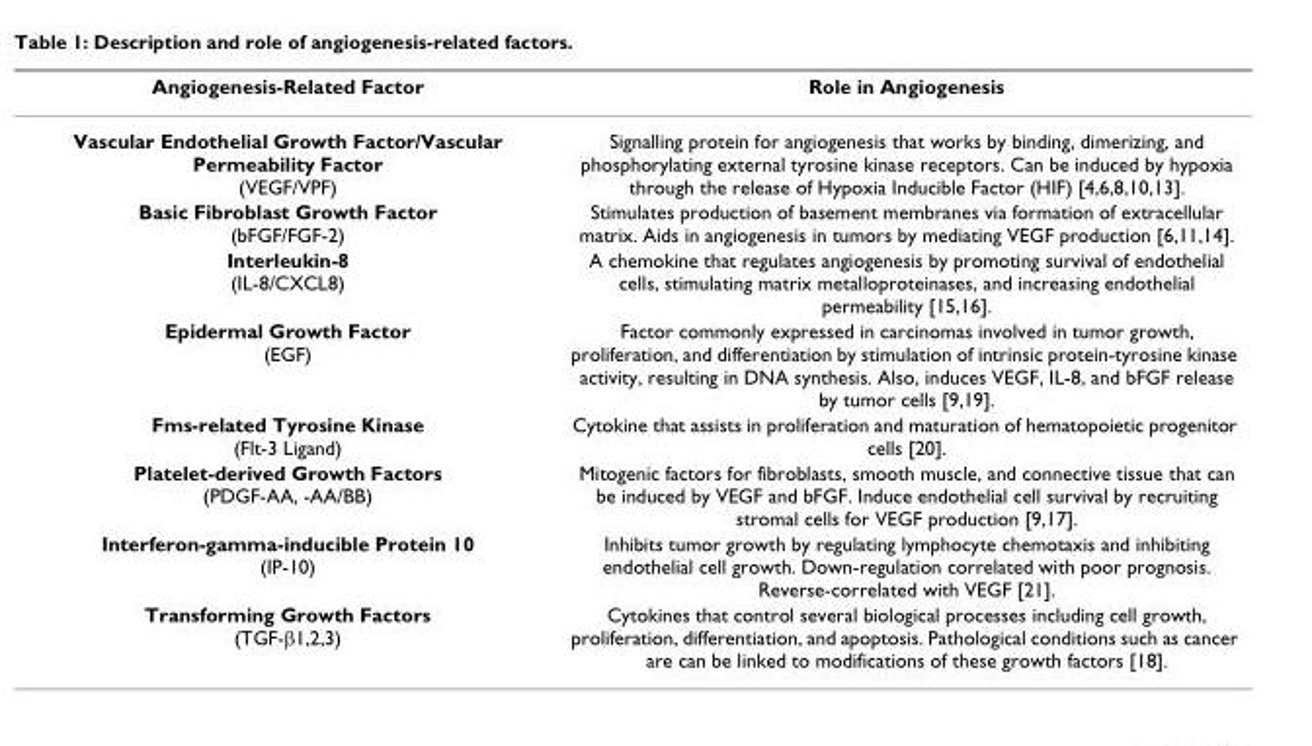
<table><thead><tr><td>Angiogenesis-Related Factor</td><td>Role in Angiogenesis</td></tr></thead><tbody><tr><td>Vascular Endothelial Growth Factor/Vascular Permeability Factor (VEGF/VPF)</td><td>Signalling protein for angiogenesis that works by binding, dimerizing, and phosphorylating external tyrosine kinase receptors. Can be induced by hypoxia through the release of Hypoxia Inducible Factor (HIF) [4,6,8,10,13].</td></tr><tr><td>Basic Fibroblast Growth Factor (bFGF/FGF-2)</td><td>Stimulates production of basement membranes via formation of extracellular matrix. Aids in angiogenesis in tumors by mediating VEGF production [6,11,14].</td></tr><tr><td>Interleukin-8 (IL-8/CXCL8)</td><td>A chemokine that regulates angiogenesis by promoting survival of endothelial cells, stimulating matrix metalloproteinases, and increasing endothelial permeability [15,16].</td></tr><tr><td>Epidermal Growth Factor (EGF)</td><td>Factor commonly expressed in carcinomas involved in tumor growth, proliferation, and differentiation by stimulation of intrinsic protein-tyrosine kinase activity, resulting in DNA synthesis. Also, induces VEGF, IL-8, and bFGF release by tumor cells [9,19].</td></tr><tr><td>Fms-related Tyrosine Kinase (Flt-3 Ligand)</td><td>Cytokine that assists in proliferation and maturation of hematopoietic progenitor cells [20].</td></tr><tr><td>Platelet-derived Growth Factors (PDGF-AA, -AA/BB)</td><td>Mitogenic factors for fibroblasts, smooth muscle, and connective tissue that can be induced by VEGF and bFGF. Induce endothelial cell survival by recruiting stromal cells for VEGF production [9,17].</td></tr><tr><td>Interferon-gamma-inducible Protein 10 (IP-10)</td><td>Inhibits tumor growth by regulating lymphocyte chemotaxis and inhibiting endothelial cell growth. Down-regulation correlated with poor prognosis. Reverse-correlated with VEGF [21].</td></tr><tr><td>Transforming Growth Factors (TGF-β1,2,3)</td><td>Cytokines that control several biological processes including cell growth, proliferation, differentiation, and apoptosis. Pathological conditions such as cancer are can be linked to modifications of these growth factors [18].</td></tr></tbody></table>